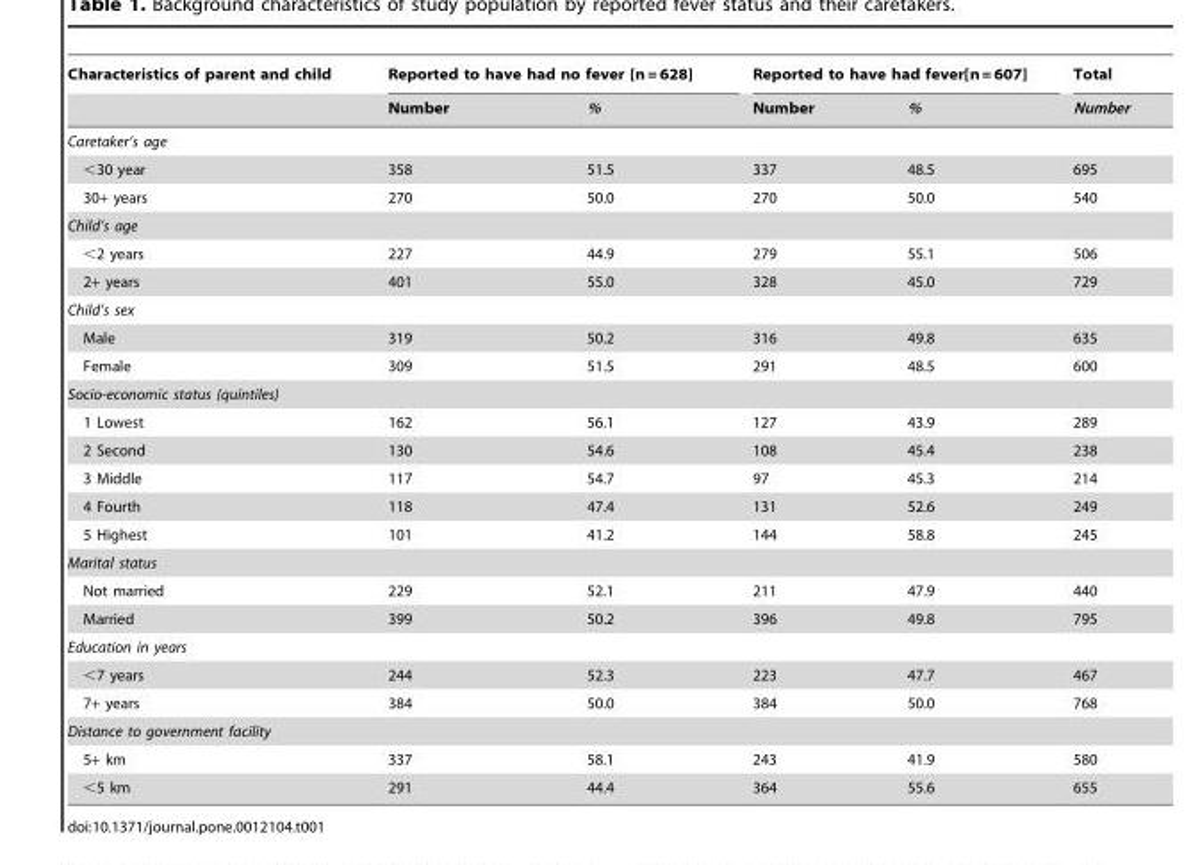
<table><thead><tr><td rowspan="2">Characteristics of parent and child</td><td colspan="2">Reported to have had no fever [n = 628]</td><td colspan="2">Reported to have had fever[n = 607]</td><td rowspan="2">Total Number</td></tr><tr><td>Number</td><td>%</td><td>Number</td><td>%</td></tr></thead><tbody><tr><td colspan="6">Caretaker’s age</td></tr><tr><td>&lt;30 year</td><td>358</td><td>51.5</td><td>337</td><td>48.5</td><td>695</td></tr><tr><td>30+ years</td><td>270</td><td>50.0</td><td>270</td><td>50.0</td><td>540</td></tr><tr><td colspan="6">Child’s age</td></tr><tr><td>&lt;2 years</td><td>227</td><td>44.9</td><td>279</td><td>55.1</td><td>506</td></tr><tr><td>2+ years</td><td>401</td><td>55.0</td><td>328</td><td>45.0</td><td>729</td></tr><tr><td colspan="6">Child’s sex</td></tr><tr><td>Male</td><td>319</td><td>50.2</td><td>316</td><td>49.8</td><td>635</td></tr><tr><td>Female</td><td>309</td><td>51.5</td><td>291</td><td>48.5</td><td>600</td></tr><tr><td colspan="6">Socio-economic status (quintiles)</td></tr><tr><td>1 Lowest</td><td>162</td><td>56.1</td><td>127</td><td>43.9</td><td>289</td></tr><tr><td>2 Second</td><td>130</td><td>54.6</td><td>108</td><td>45.4</td><td>238</td></tr><tr><td>3 Middle</td><td>117</td><td>54.7</td><td>97</td><td>45.3</td><td>214</td></tr><tr><td>4 Fourth</td><td>118</td><td>47.4</td><td>131</td><td>52.6</td><td>249</td></tr><tr><td>5 Highest</td><td>101</td><td>41.2</td><td>144</td><td>58.8</td><td>245</td></tr><tr><td colspan="6">Marital status</td></tr><tr><td>Not married</td><td>229</td><td>52.1</td><td>211</td><td>47.9</td><td>440</td></tr><tr><td>Married</td><td>399</td><td>50.2</td><td>396</td><td>49.8</td><td>795</td></tr><tr><td colspan="6">Education in years</td></tr><tr><td>&lt;7 years</td><td>244</td><td>52.3</td><td>223</td><td>47.7</td><td>467</td></tr><tr><td>7+ years</td><td>384</td><td>50.0</td><td>384</td><td>50.0</td><td>768</td></tr><tr><td colspan="6">Distance to government facility</td></tr><tr><td>5+ km</td><td>337</td><td>58.1</td><td>243</td><td>41.9</td><td>580</td></tr><tr><td>&lt;5 km</td><td>291</td><td>44.4</td><td>364</td><td>55.6</td><td>655</td></tr></tbody></table>